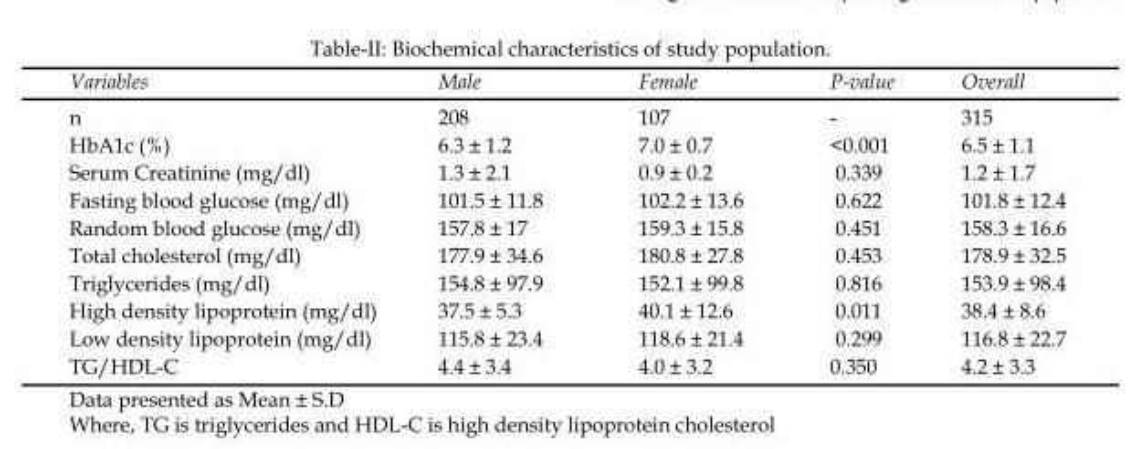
<table><thead><tr><td>Variables</td><td>Male</td><td>Female</td><td>P-value</td><td>Overall</td></tr></thead><tbody><tr><td>n</td><td>208</td><td>107</td><td>-</td><td>315</td></tr><tr><td>HbA1c (%)</td><td>6.3 ± 1.2</td><td>7.0 ± 0.7</td><td>&lt;0.001</td><td>6.5 ± 1.1</td></tr><tr><td>Serum Creatinine (mg/dl)</td><td>1.3 ± 2.1</td><td>0.9 ± 0.2</td><td>0.339</td><td>1.2 ± 1.7</td></tr><tr><td>Fasting blood glucose (mg/dl)</td><td>101.5 ± 11.8</td><td>102.2 ± 13.6</td><td>0.622</td><td>101.8 ± 12.4</td></tr><tr><td>Random blood glucose (mg/dl)</td><td>157.8 ± 17</td><td>159.3 ± 15.8</td><td>0.451</td><td>158.3 ± 16.6</td></tr><tr><td>Total cholesterol (mg/dl)</td><td>177.9 ± 34.6</td><td>180.8 ± 27.8</td><td>0.453</td><td>178.9 ± 32.5</td></tr><tr><td>Triglycerides (mg/dl)</td><td>154.8 ± 97.9</td><td>152.1 ± 99.8</td><td>0.816</td><td>153.9 ± 98.4</td></tr><tr><td>High density lipoprotein (mg/dl)</td><td>37.5 ± 5.3</td><td>40.1 ± 12.6</td><td>0.011</td><td>38.4 ± 8.6</td></tr><tr><td>Low density lipoprotein (mg/dl)</td><td>115.8 ± 23.4</td><td>118.6 ± 21.4</td><td>0.299</td><td>116.8 ± 22.7</td></tr><tr><td>TG/HDL-C</td><td>4.4 ± 3.4</td><td>4.0 ± 3.2</td><td>0.350</td><td>4.2 ± 3.3</td></tr></tbody></table>